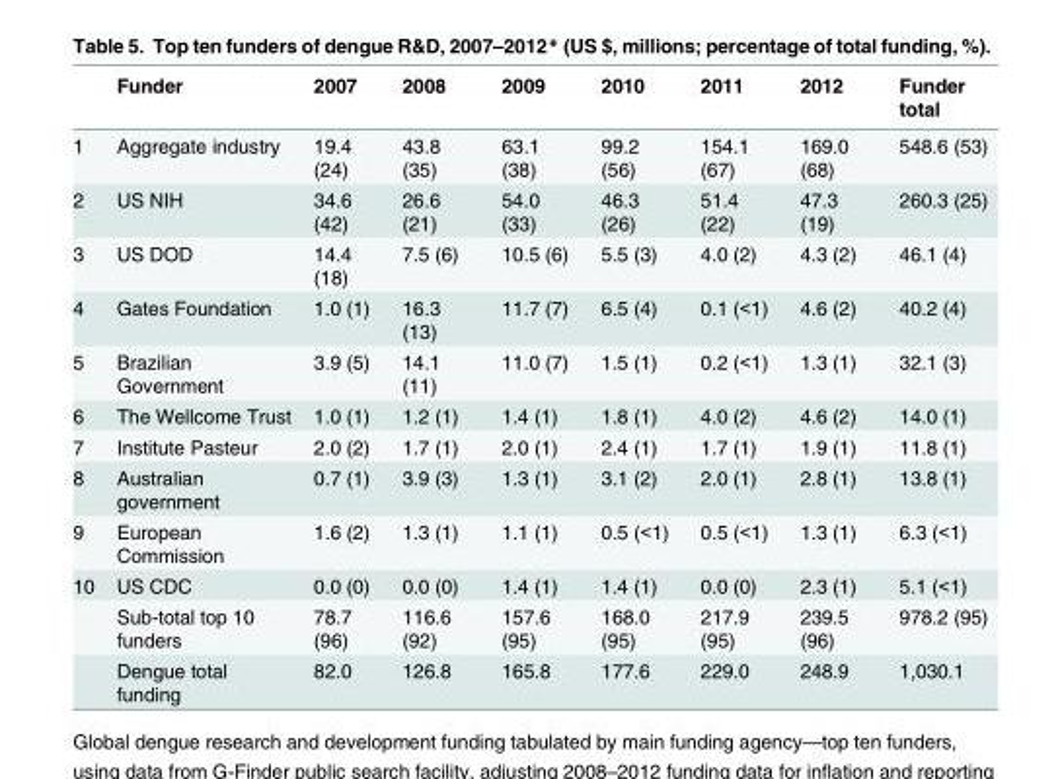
<table><thead><tr><td></td><td>Funder</td><td>2007</td><td>2008</td><td>2009</td><td>2010</td><td>2011</td><td>2012</td><td>Funder total</td></tr></thead><tbody><tr><td>1</td><td>Aggregate industry</td><td>19.4 (24)</td><td>43.8 (35)</td><td>63.1 (38)</td><td>99.2 (56)</td><td>154.1 (67)</td><td>169.0 (68)</td><td>548.6 (53)</td></tr><tr><td>2</td><td>US NIH</td><td>34.6 (42)</td><td>26.6 (21)</td><td>54.0 (33)</td><td>46.3 (26)</td><td>51.4 (22)</td><td>47.3 (19)</td><td>260.3 (25)</td></tr><tr><td>3</td><td>US DOD</td><td>14.4 (18)</td><td>7.5 (6)</td><td>10.5 (6)</td><td>5.5 (3)</td><td>4.0 (2)</td><td>4.3 (2)</td><td>46.1 (4)</td></tr><tr><td>4</td><td>Gates Foundation</td><td>1.0 (1)</td><td>16.3 (13)</td><td>11.7 (7)</td><td>6.5 (4)</td><td>0.1 (&lt;1)</td><td>4.6 (2)</td><td>40.2 (4)</td></tr><tr><td>5</td><td>Brazilian Government</td><td>3.9 (5)</td><td>14.1 (11)</td><td>11.0 (7)</td><td>1.5 (1)</td><td>0.2 (&lt;1)</td><td>1.3 (1)</td><td>32.1 (3)</td></tr><tr><td>6</td><td>The Wellcome Trust</td><td>1.0 (1)</td><td>1.2 (1)</td><td>1.4 (1)</td><td>1.8 (1)</td><td>4.0 (2)</td><td>4.6 (2)</td><td>14.0 (1)</td></tr><tr><td>7</td><td>Institute Pasteur</td><td>2.0 (2)</td><td>1.7 (1)</td><td>2.0 (1)</td><td>2.4 (1)</td><td>1.7 (1)</td><td>1.9 (1)</td><td>11.8 (1)</td></tr><tr><td>8</td><td>Australian government</td><td>0.7 (1)</td><td>3.9 (3)</td><td>1.3 (1)</td><td>3.1 (2)</td><td>2.0 (1)</td><td>2.8 (1)</td><td>13.8 (1)</td></tr><tr><td>9</td><td>European Commission</td><td>1.6 (2)</td><td>1.3 (1)</td><td>1.1 (1)</td><td>0.5 (&lt;1)</td><td>0.5 (&lt;1)</td><td>1.3 (1)</td><td>6.3 (&lt;1)</td></tr><tr><td rowspan="3">10</td><td>US CDC</td><td>0.0 (0)</td><td>0.0 (0)</td><td>1.4 (1)</td><td>1.4 (1)</td><td>0.0 (0)</td><td>2.3 (1)</td><td>5.1 (&lt;1)</td></tr><tr><td>Sub-total top 10 funders</td><td>78.7 (96)</td><td>116.6 (92)</td><td>157.6 (95)</td><td>168.0 (95)</td><td>217.9 (95)</td><td>239.5 (96)</td><td>978.2 (95)</td></tr><tr><td>Dengue total funding</td><td>82.0</td><td>126.8</td><td>165.8</td><td>177.6</td><td>229.0</td><td>248.9</td><td>1,030.1</td></tr></tbody></table>